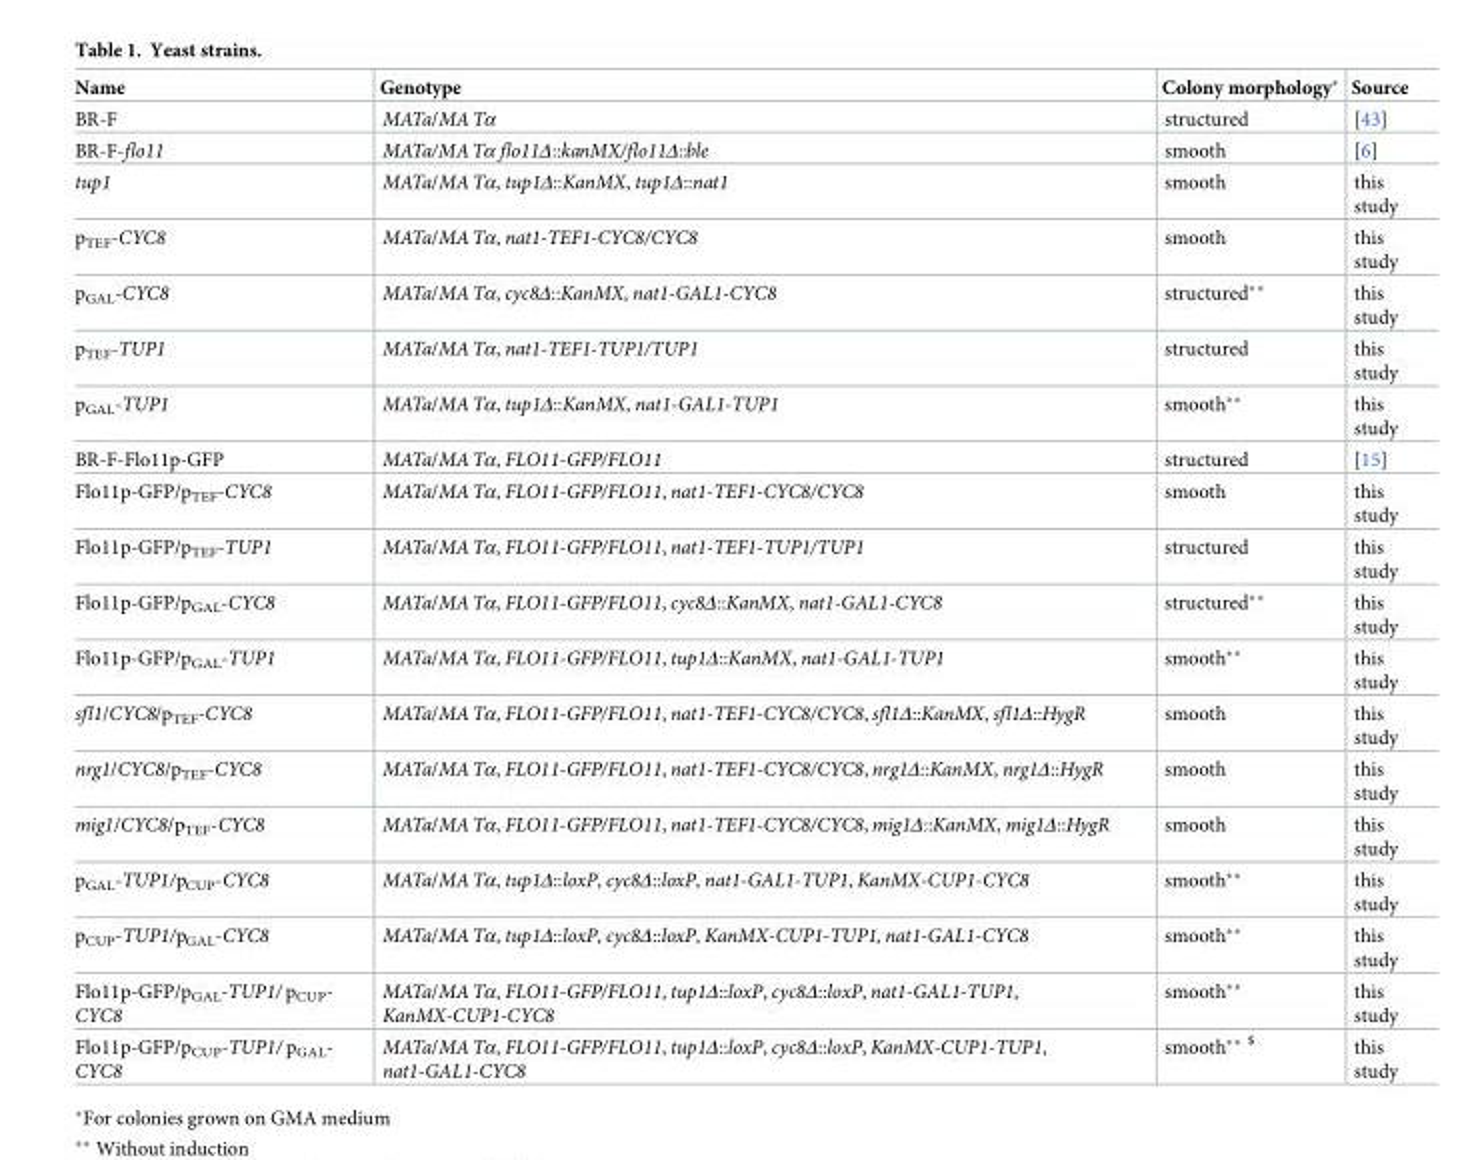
<table><thead><tr><td>Name</td><td>Genotype</td><td>Colony morphology*</td><td>Source</td></tr></thead><tbody><tr><td>BR-F</td><td>MATa/MATα</td><td>structured</td><td>[43]</td></tr><tr><td>BR-F-flo11</td><td>MATa/MATα flo11Δ::kanMX/flo11Δ::ble</td><td>smooth</td><td>[6]</td></tr><tr><td>tup1</td><td>MATa/MATα, tup1Δ::KanMX, tup1Δ::nat1</td><td>smooth</td><td>this study</td></tr><tr><td>p<sub>TEF</sub>-CYC8</td><td>MATa/MATα, nat1-TEF1-CYC8/CYC8</td><td>smooth</td><td>this study</td></tr><tr><td>p<sub>GAL</sub>-CYC8</td><td>MATa/MATα, cyc8Δ::KanMX, nat1-GAL1-CYC8</td><td>structured**</td><td>this study</td></tr><tr><td>p<sub>TEF</sub>-TUP1</td><td>MATa/MATα, nat1-TEF1-TUP1/TUP1</td><td>structured</td><td>this study</td></tr><tr><td>p<sub>GAL</sub>-TUP1</td><td>MATa/MATα, tup1Δ::KanMX, nat1-GAL1-TUP1</td><td>smooth**</td><td>this study</td></tr><tr><td>BR-F-Flo11p-GFP</td><td>MATa/MATα, FLO11-GFP/FLO11</td><td>structured</td><td>[15]</td></tr><tr><td>Flo11p-GFP/p<sub>TEF</sub>-CYC8</td><td>MATa/MATα, FLO11-GFP/FLO11, nat1-TEF1-CYC8/CYC8</td><td>smooth</td><td>this study</td></tr><tr><td>Flo11p-GFP/p<sub>TEF</sub>-TUP1</td><td>MATa/MATα, FLO11-GFP/FLO11, nat1-TEF1-TUP1/TUP1</td><td>structured</td><td>this study</td></tr><tr><td>Flo11p-GFP/p<sub>GAL</sub>-CYC8</td><td>MATa/MATα, FLO11-GFP/FLO11, cyc8Δ::KanMX, nat1-GAL1-CYC8</td><td>structured**</td><td>this study</td></tr><tr><td>Flo11p-GFP/p<sub>GAL</sub>-TUP1</td><td>MATa/MATα, FLO11-GFP/FLO11, tup1Δ::KanMX, nat1-GAL1-TUP1</td><td>smooth**</td><td>this study</td></tr><tr><td>sfl1/CYC8/p<sub>TEF</sub>-CYC8</td><td>MATa/MATα, FLO11-GFP/FLO11, nat1-TEF1-CYC8/CYC8, sfl1Δ::KanMX, sfl1Δ::HygR</td><td>smooth</td><td>this study</td></tr><tr><td>nrg1/CYC8/p<sub>TEF</sub>-CYC8</td><td>MATa/MATα, FLO11-GFP/FLO11, nat1-TEF1-CYC8/CYC8, nrg1Δ::KanMX, nrg1Δ::HygR</td><td>smooth</td><td>this study</td></tr><tr><td>mig1/CYC8/p<sub>TEF</sub>-CYC8</td><td>MATa/MATα, FLO11-GFP/FLO11, nat1-TEF1-CYC8/CYC8, mig1Δ::KanMX, mig1Δ::HygR</td><td>smooth</td><td>this study</td></tr><tr><td>p<sub>GAL</sub>-TUP1/p<sub>CUP</sub>-CYC8</td><td>MATa/MATα, tup1Δ::loxP, cyc8Δ::loxP, nat1-GAL1-TUP1, KanMX-CUP1-CYC8</td><td>smooth**</td><td>this study</td></tr><tr><td>p<sub>CUP</sub>-TUP1/p<sub>GAL</sub>-CYC8</td><td>MATa/MATα, tup1Δ::loxP, cyc8Δ::loxP, KanMX-CUP1-TUP1, nat1-GAL1-CYC8</td><td>smooth**</td><td>this study</td></tr><tr><td>Flo11p-GFP/p<sub>GAL</sub>-TUP1/ p<sub>CUP</sub>- CYC8</td><td>MATa/MATα, FLO11-GFP/FLO11, tup1Δ::loxP, cyc8Δ::loxP, nat1-GAL1-TUP1, KanMX-CUP1-CYC8</td><td>smooth**</td><td>this study</td></tr><tr><td>Flo11p-GFP/p<sub>CUP</sub>-TUP1/ p<sub>GAL</sub>- CYC8</td><td>MATa/MATα, FLO11-GFP/FLO11, tup1Δ::loxP, cyc8Δ::loxP, KanMX-CUP1-TUP1, nat1-GAL1-CYC8</td><td>smooth** <sup>$</sup></td><td>this study</td></tr></tbody></table>